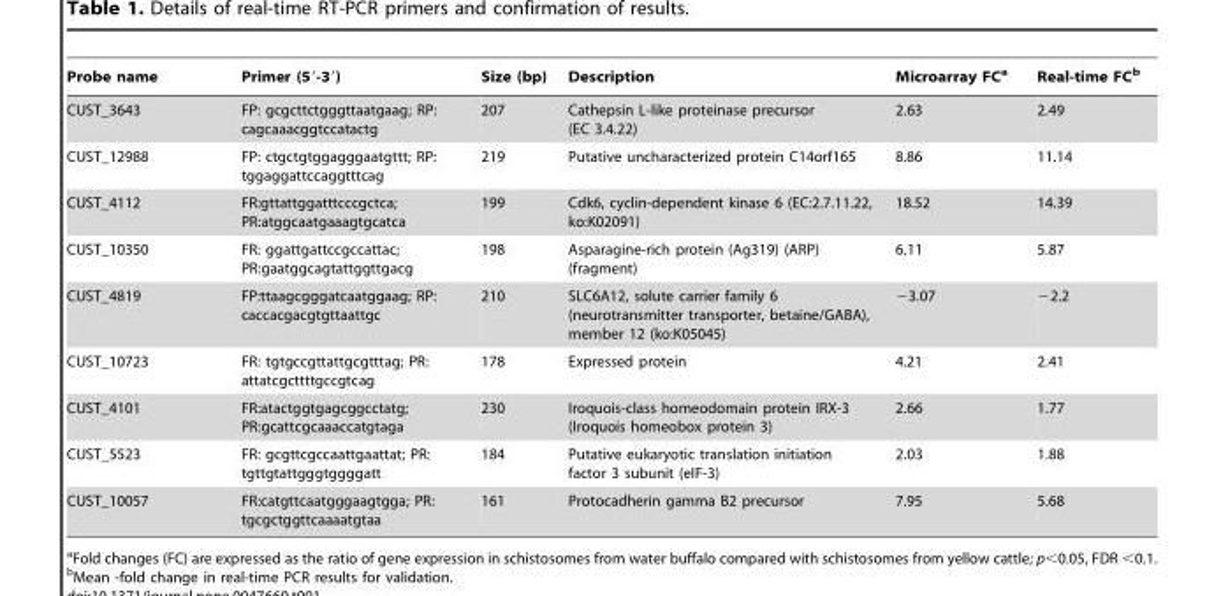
<table><thead><tr><td>Probe name</td><td>Primer (5′-3′)</td><td>Size (bp)</td><td>Description</td><td>Microarray FC<sup>a</sup></td><td>Real-time FC<sup>b</sup></td></tr></thead><tbody><tr><td>CUST_3643</td><td>FP: gcgcttctgggttaatgaag; RP: cagcaaacggtccatactg</td><td>207</td><td>Cathepsin L-like proteinase precursor (EC 3.4.22)</td><td>2.63</td><td>2.49</td></tr><tr><td>CUST_12988</td><td>FP: ctgctgtggagggaatgttt; RP: tggaggattccaggtttcag</td><td>219</td><td>Putative uncharacterized protein C14orf165</td><td>8.86</td><td>11.14</td></tr><tr><td>CUST_4112</td><td>FR:gttattggatttcccgctca; PR:atggcaatgaaagtgcatca</td><td>199</td><td>Cdk6, cyclin-dependent kinase 6 (EC:2.7.11.22, ko:K02091)</td><td>18.52</td><td>14.39</td></tr><tr><td>CUST_10350</td><td>FR: ggattgattccgccattac; PR:gaatggcagtattggttgacg</td><td>198</td><td>Asparagine-rich protein (Ag319) (ARP) (fragment)</td><td>6.11</td><td>5.87</td></tr><tr><td>CUST_4819</td><td>FP:ttaagcgggatcaatggaag; RP: caccacgacgtgttaattgc</td><td>210</td><td>SLC6A12, solute carrier family 6 (neurotransmitter transporter, betaine/GABA), member 12 (ko:K05045)</td><td>−3.07</td><td>−2.2</td></tr><tr><td>CUST_10723</td><td>FR: tgtgccgttattgcgtttag; PR: attatcgcttttgccgtcag</td><td>178</td><td>Expressed protein</td><td>4.21</td><td>2.41</td></tr><tr><td>CUST_4101</td><td>FR:atactggtgagcggcctatg; PR:gcattcgcaaaccatgtaga</td><td>230</td><td>Iroquois-class homeodomain protein IRX-3 (Iroquois homeobox protein 3)</td><td>2.66</td><td>1.77</td></tr><tr><td>CUST_5523</td><td>FR: gcgttcgccaattgaattat; PR: tgttgtattgggtggggatt</td><td>184</td><td>Putative eukaryotic translation initiation factor 3 subunit (eIF-3)</td><td>2.03</td><td>1.88</td></tr><tr><td>CUST_10057</td><td>FR:catgttcaatgggaagtgga; PR: tgcgctggttcaaaatgtaa</td><td>161</td><td>Protocadherin gamma B2 precursor</td><td>7.95</td><td>5.68</td></tr></tbody></table>